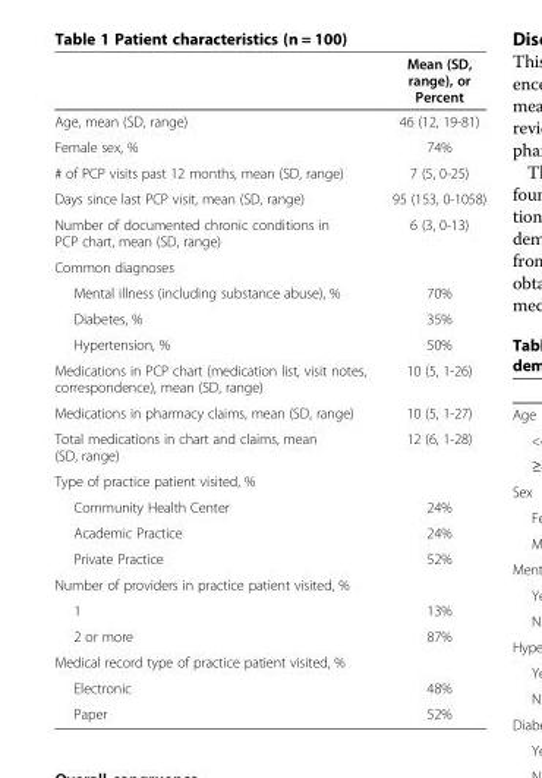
<table><thead><tr><td></td><td>Mean (SD, range), or Percent</td></tr></thead><tbody><tr><td>Age, mean (SD, range)</td><td>46 (12, 19-81)</td></tr><tr><td>Female sex, %</td><td>74%</td></tr><tr><td># of PCP visits past 12 months, mean (SD, range)</td><td>7 (5, 0-25)</td></tr><tr><td>Days since last PCP visit, mean (SD, range)</td><td>95 (153, 0-1058)</td></tr><tr><td>Number of documented chronic conditions in PCP chart, mean (SD, range)</td><td>6 (3, 0-13)</td></tr><tr><td colspan="2">Common diagnoses</td></tr><tr><td>Mental illness (including substance abuse), %</td><td>70%</td></tr><tr><td>Diabetes, %</td><td>35%</td></tr><tr><td>Hypertension, %</td><td>50%</td></tr><tr><td>Medications in PCP chart (medication list, visit notes, correspondence), mean (SD, range)</td><td>10 (5, 1-26)</td></tr><tr><td>Medications in pharmacy claims, mean (SD, range)</td><td>10 (5, 1-27)</td></tr><tr><td>Total medications in chart and claims, mean (SD, range)</td><td>12 (6, 1-28)</td></tr><tr><td colspan="2">Type of practice patient visited, %</td></tr><tr><td>Community Health Center</td><td>24%</td></tr><tr><td>Academic Practice</td><td>24%</td></tr><tr><td>Private Practice</td><td>52%</td></tr><tr><td colspan="2">Number of providers in practice patient visited, %</td></tr><tr><td>1</td><td>13%</td></tr><tr><td>2 or more</td><td>87%</td></tr><tr><td colspan="2">Medical record type of practice patient visited, %</td></tr><tr><td>Electronic</td><td>48%</td></tr><tr><td>Paper</td><td>52%</td></tr></tbody></table>